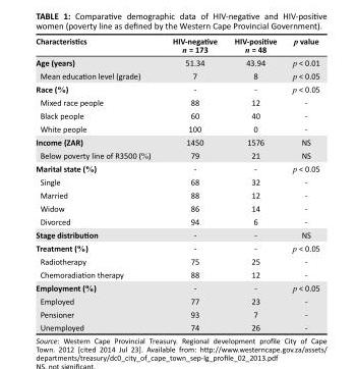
<table><thead><tr><td>Characteristics</td><td>HIV-negative n = 173</td><td>HIV-positive n = 48</td><td>p value</td></tr></thead><tbody><tr><td>Age (years)</td><td>51.34</td><td>43.94</td><td>p &lt; 0.01</td></tr><tr><td>Mean education level (grade)</td><td>7</td><td>8</td><td>p &lt; 0.05</td></tr><tr><td>Race (%)</td><td>-</td><td>-</td><td>p &lt; 0.05</td></tr><tr><td>Mixed race people</td><td>88</td><td>12</td><td>-</td></tr><tr><td>Black people</td><td>60</td><td>40</td><td>-</td></tr><tr><td>White people</td><td>100</td><td>0</td><td>-</td></tr><tr><td>Income (ZAR)</td><td>1450</td><td>1576</td><td>NS</td></tr><tr><td>Below poverty line of R3500 (%)</td><td>79</td><td>21</td><td>NS</td></tr><tr><td>Marital state (%)</td><td>-</td><td>-</td><td>p &lt; 0.05</td></tr><tr><td>Single</td><td>68</td><td>32</td><td>-</td></tr><tr><td>Married</td><td>88</td><td>12</td><td>-</td></tr><tr><td>Widow</td><td>86</td><td>14</td><td>-</td></tr><tr><td>Divorced</td><td>94</td><td>6</td><td>-</td></tr><tr><td>Stage distribution</td><td>-</td><td>-</td><td>NS</td></tr><tr><td>Treatment (%)</td><td>-</td><td>-</td><td>p &lt; 0.05</td></tr><tr><td>Radiotherapy</td><td>75</td><td>25</td><td>-</td></tr><tr><td>Chemoradiation therapy</td><td>88</td><td>12</td><td>-</td></tr><tr><td>Employment (%)</td><td>-</td><td>-</td><td>p &lt; 0.05</td></tr><tr><td>Employed</td><td>77</td><td>23</td><td>-</td></tr><tr><td>Pensioner</td><td>93</td><td>7</td><td>-</td></tr><tr><td>Unemployed</td><td>74</td><td>26</td><td>-</td></tr></tbody></table>